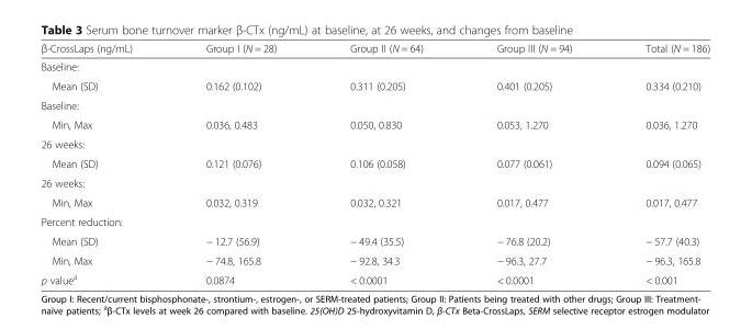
<table><thead><tr><td>β-CrossLaps (ng/mL)</td><td>Group I (N = 28)</td><td>Group II (N = 64)</td><td>Group III (N = 94)</td><td>Total (N = 186)</td></tr></thead><tbody><tr><td colspan="5">Baseline:</td></tr><tr><td>Mean (SD)</td><td>0.162 (0.102)</td><td>0.311 (0.205)</td><td>0.401 (0.205)</td><td>0.334 (0.210)</td></tr><tr><td colspan="5">Baseline:</td></tr><tr><td>Min, Max</td><td>0.036, 0.483</td><td>0.050, 0.830</td><td>0.053, 1.270</td><td>0.036, 1.270</td></tr><tr><td colspan="5">26 weeks:</td></tr><tr><td>Mean (SD)</td><td>0.121 (0.076)</td><td>0.106 (0.058)</td><td>0.077 (0.061)</td><td>0.094 (0.065)</td></tr><tr><td colspan="5">26 weeks:</td></tr><tr><td>Min, Max</td><td>0.032, 0.319</td><td>0.032, 0.321</td><td>0.017, 0.477</td><td>0.017, 0.477</td></tr><tr><td colspan="5">Percent reduction:</td></tr><tr><td>Mean (SD)</td><td>− 12.7 (56.9)</td><td>− 49.4 (35.5)</td><td>− 76.8 (20.2)</td><td>− 57.7 (40.3)</td></tr><tr><td>Min, Max</td><td>− 74.8, 165.8</td><td>− 92.8, 34.3</td><td>− 96.3, 27.7</td><td>− 96.3, 165.8</td></tr><tr><td>p value<sup>a</sup></td><td>0.0874</td><td>&lt; 0.0001</td><td>&lt; 0.0001</td><td>&lt; 0.001</td></tr></tbody></table>